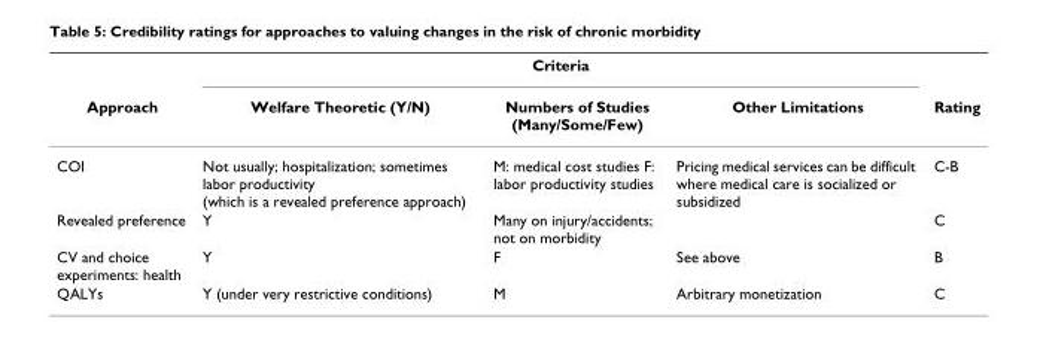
<table><thead><tr><td rowspan="2">Approach</td><td colspan="3">Criteria</td><td rowspan="2">Rating</td></tr><tr><td>Welfare Theoretic (Y/N)</td><td>Numbers of Studies (Many/Some/Few)</td><td>Other Limitations</td></tr></thead><tbody><tr><td>COI</td><td>Not usually; hospitalization; sometimes labor productivity (which is a revealed preference approach)</td><td>M: medical cost studies F: labor productivity studies</td><td>Pricing medical services can be difficult where medical care is socialized or subsidized</td><td>C-B</td></tr><tr><td>Revealed preference</td><td>Y</td><td>Many on injury/accidents; not on morbidity</td><td></td><td>C</td></tr><tr><td>CV and choice experiments: health</td><td>Y</td><td>F</td><td>See above</td><td>B</td></tr><tr><td>QALYs</td><td>Y (under very restrictive conditions)</td><td>M</td><td>Arbitrary monetization</td><td>C</td></tr></tbody></table>